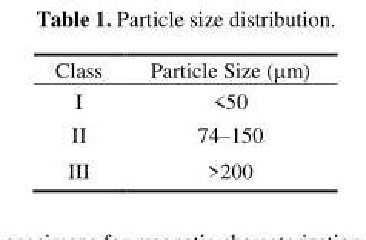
<table><thead><tr><td>Class</td><td>Particle Size (μm)</td></tr></thead><tbody><tr><td>I</td><td>&lt;50</td></tr><tr><td>II</td><td>74–150</td></tr><tr><td>III</td><td>&gt;200</td></tr></tbody></table>